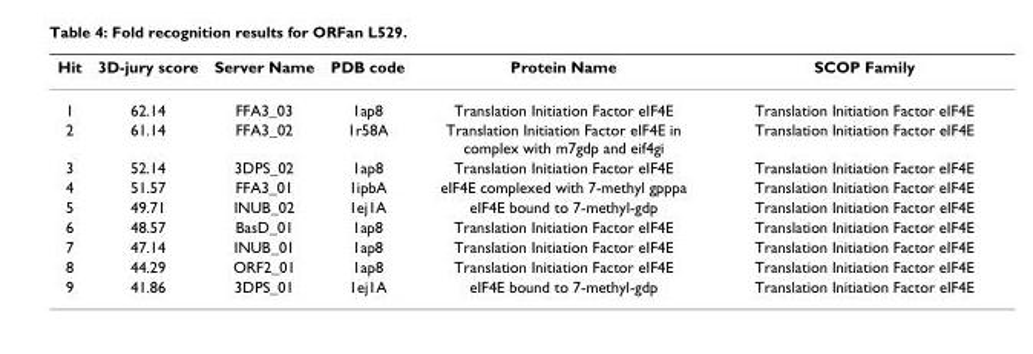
<table><thead><tr><td>Hit</td><td>3D-jury score</td><td>Server Name</td><td>PDB code</td><td>Protein Name</td><td>SCOP Family</td></tr></thead><tbody><tr><td>1</td><td>62.14</td><td>FFA3_03</td><td>1ap8</td><td>Translation Initiation Factor eIF4E</td><td>Translation Initiation Factor eIF4E</td></tr><tr><td>2</td><td>61.14</td><td>FFA3_02</td><td>1r58A</td><td>Translation Initiation Factor eIF4E in complex with m7gdp and eif4gi</td><td>Translation Initiation Factor eIF4E</td></tr><tr><td>3</td><td>52.14</td><td>3DPS_02</td><td>1ap8</td><td>Translation Initiation Factor eIF4E</td><td>Translation Initiation Factor eIF4E</td></tr><tr><td>4</td><td>51.57</td><td>FFA3_01</td><td>1ipbA</td><td>eIF4E complexed with 7-methyl gpppa</td><td>Translation Initiation Factor eIF4E</td></tr><tr><td>5</td><td>49.71</td><td>INUB_02</td><td>1ej1A</td><td>eIF4E bound to 7-methyl-gdp</td><td>Translation Initiation Factor eIF4E</td></tr><tr><td>6</td><td>48.57</td><td>BasD_01</td><td>1ap8</td><td>Translation Initiation Factor eIF4E</td><td>Translation Initiation Factor eIF4E</td></tr><tr><td>7</td><td>47.14</td><td>INUB_01</td><td>1ap8</td><td>Translation Initiation Factor eIF4E</td><td>Translation Initiation Factor eIF4E</td></tr><tr><td>8</td><td>44.29</td><td>ORF2_01</td><td>1ap8</td><td>Translation Initiation Factor eIF4E</td><td>Translation Initiation Factor eIF4E</td></tr><tr><td>9</td><td>41.86</td><td>3DPS_01</td><td>1ej1A</td><td>eIF4E bound to 7-methyl-gdp</td><td>Translation Initiation Factor eIF4E</td></tr></tbody></table>